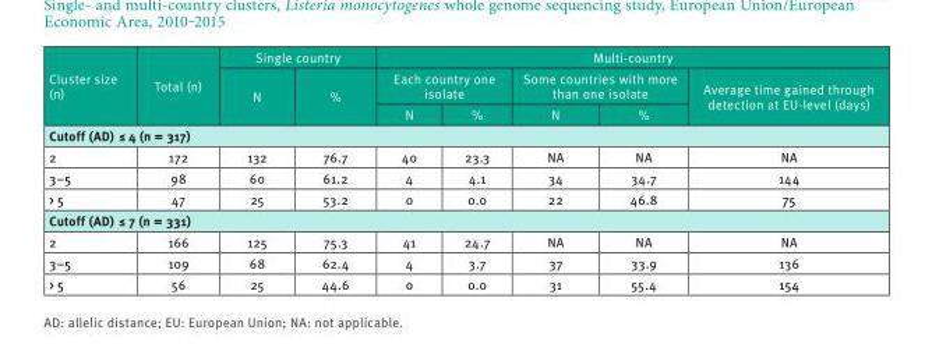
<table><thead><tr><td rowspan="3">Cluster size (n)</td><td rowspan="3">Total (n)</td><td colspan="2">Single country</td><td colspan="5">Multi-country</td></tr><tr><td rowspan="2">N</td><td rowspan="2">%</td><td colspan="2">Each country one isolate</td><td colspan="2">Some countries with more than one isolate</td><td rowspan="2">Average time gained through detection at EU-level (days)</td></tr><tr><td>N</td><td>%</td><td>N</td><td>%</td></tr></thead><tbody><tr><td colspan="9">Cutoff (AD) ≤ 4 (n = 317)</td></tr><tr><td>2</td><td>172</td><td>132</td><td>76.7</td><td>40</td><td>23.3</td><td>NA</td><td>NA</td><td>NA</td></tr><tr><td>3–5</td><td>98</td><td>60</td><td>61.2</td><td>4</td><td>4.1</td><td>34</td><td>34.7</td><td>144</td></tr><tr><td>&gt; 5</td><td>47</td><td>25</td><td>53.2</td><td>0</td><td>0.0</td><td>22</td><td>46.8</td><td>75</td></tr><tr><td colspan="9">Cutoff (AD) ≤ 7 (n = 331)</td></tr><tr><td>2</td><td>166</td><td>125</td><td>75.3</td><td>41</td><td>24.7</td><td>NA</td><td>NA</td><td>NA</td></tr><tr><td>3–5</td><td>109</td><td>68</td><td>62.4</td><td>4</td><td>3.7</td><td>37</td><td>33.9</td><td>136</td></tr><tr><td>&gt; 5</td><td>56</td><td>25</td><td>44.6</td><td>0</td><td>0.0</td><td>31</td><td>55.4</td><td>154</td></tr></tbody></table>